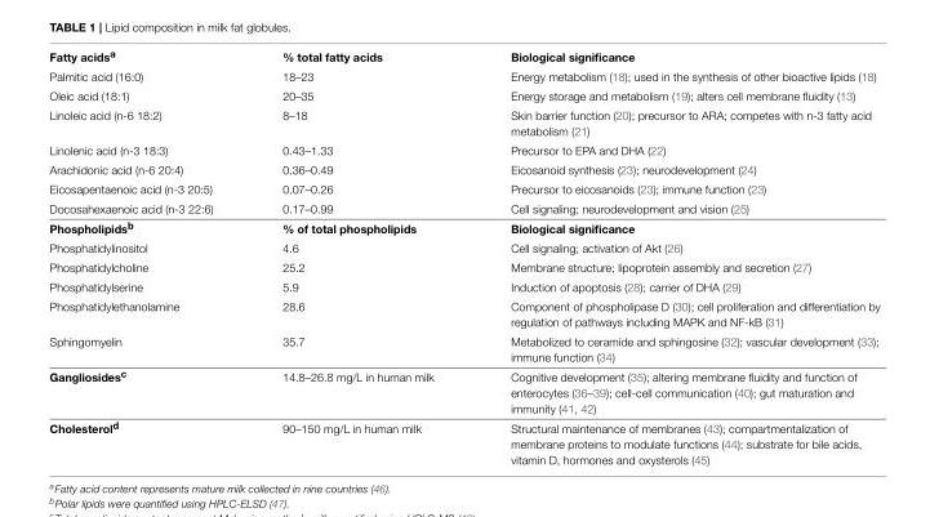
<table><tbody><tr><td>Fatty acids<sup>a</sup></td><td>% total fatty acids</td><td>Biological significance</td></tr><tr><td>Palmitic acid (16:0)</td><td>18–23</td><td>Energy metabolism (18); used in the synthesis of other bioactive lipids (18)</td></tr><tr><td>Oleic acid (18:1)</td><td>20–35</td><td>Energy storage and metabolism (19); alters cell membrane fluidity (13)</td></tr><tr><td>Linoleic acid (n-6 18:2)</td><td>8–18</td><td>Skin barrier function (20); precursor to ARA; competes with n-3 fatty acid metabolism (21)</td></tr><tr><td>Linolenic acid (n-3 18:3)</td><td>0.43–1.33</td><td>Precursor to EPA and DHA (22)</td></tr><tr><td>Arachidonic acid (n-6 20:4)</td><td>0.36–0.49</td><td>Eicosanoid synthesis (23); neurodevelopment (24)</td></tr><tr><td>Eicosapentaenoic acid (n-3 20:5)</td><td>0.07–0.26</td><td>Precursor to eicosanoids (23); immune function (23)</td></tr><tr><td>Docosahexaenoic acid (n-3 22:6)</td><td>0.17–0.99</td><td>Cell signaling; neurodevelopment and vision (25)</td></tr><tr><td>Phospholipids<sup>b</sup></td><td>% of total phospholipids</td><td>Biological significance</td></tr><tr><td>Phosphatidylinositol</td><td>4.6</td><td>Cell signaling; activation of Akt (26)</td></tr><tr><td>Phosphatidylcholine</td><td>25.2</td><td>Membrane structure; lipoprotein assembly and secretion (27)</td></tr><tr><td>Phosphatidylserine</td><td>5.9</td><td>Induction of apoptosis (28); carrier of DHA (29)</td></tr><tr><td>Phosphatidylethanolamine</td><td>28.6</td><td>Component of phospholipase D (30); cell proliferation and differentiation by regulation of pathways including MAPK and NF-kB (31)</td></tr><tr><td>Sphingomyelin</td><td>35.7</td><td>Metabolized to ceramide and sphingosine (32); vascular development (33); immune function (34)</td></tr><tr><td>Gangliosides<sup>c</sup></td><td>14.8–26.8 mg/L in human milk</td><td>Cognitive development (35); altering membrane fluidity and function of enterocytes (36–39); cell-cell communication (40); gut maturation and immunity (41, 42)</td></tr><tr><td>Cholesterol<sup>d</sup></td><td>90–150 mg/L in human milk</td><td>Structural maintenance of membranes (43); compartmentalization of membrane proteins to modulate functions (44); substrate for bile acids, vitamin D, hormones and oxysterols (45)</td></tr></tbody></table>